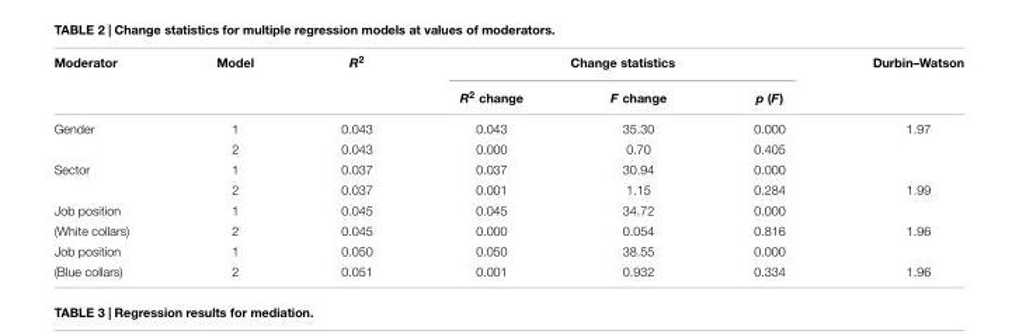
<table><thead><tr><td rowspan="2">Moderator</td><td rowspan="2">Model</td><td rowspan="2">R<sup>2</sup></td><td colspan="3">Change statistics</td><td rowspan="2">Durbin–Watson</td></tr><tr><td>R<sup>2</sup> change</td><td>F change</td><td>p (F)</td></tr></thead><tbody><tr><td rowspan="2">Gender</td><td>1</td><td>0.043</td><td>0.043</td><td>35.30</td><td>0.000</td><td>1.97</td></tr><tr><td>2</td><td>0.043</td><td>0.000</td><td>0.70</td><td>0.405</td><td></td></tr><tr><td rowspan="2">Sector</td><td>1</td><td>0.037</td><td>0.037</td><td>30.94</td><td>0.000</td><td></td></tr><tr><td>2</td><td>0.037</td><td>0.001</td><td>1.15</td><td>0.284</td><td>1.99</td></tr><tr><td>Job position</td><td>1</td><td>0.045</td><td>0.045</td><td>34.72</td><td>0.000</td><td></td></tr><tr><td>(White collars)</td><td>2</td><td>0.045</td><td>0.000</td><td>0.054</td><td>0.816</td><td>1.96</td></tr><tr><td>Job position</td><td>1</td><td>0.050</td><td>0.050</td><td>38.55</td><td>0.000</td><td></td></tr><tr><td>(Blue collars)</td><td>2</td><td>0.051</td><td>0.001</td><td>0.932</td><td>0.334</td><td>1.96</td></tr></tbody></table>